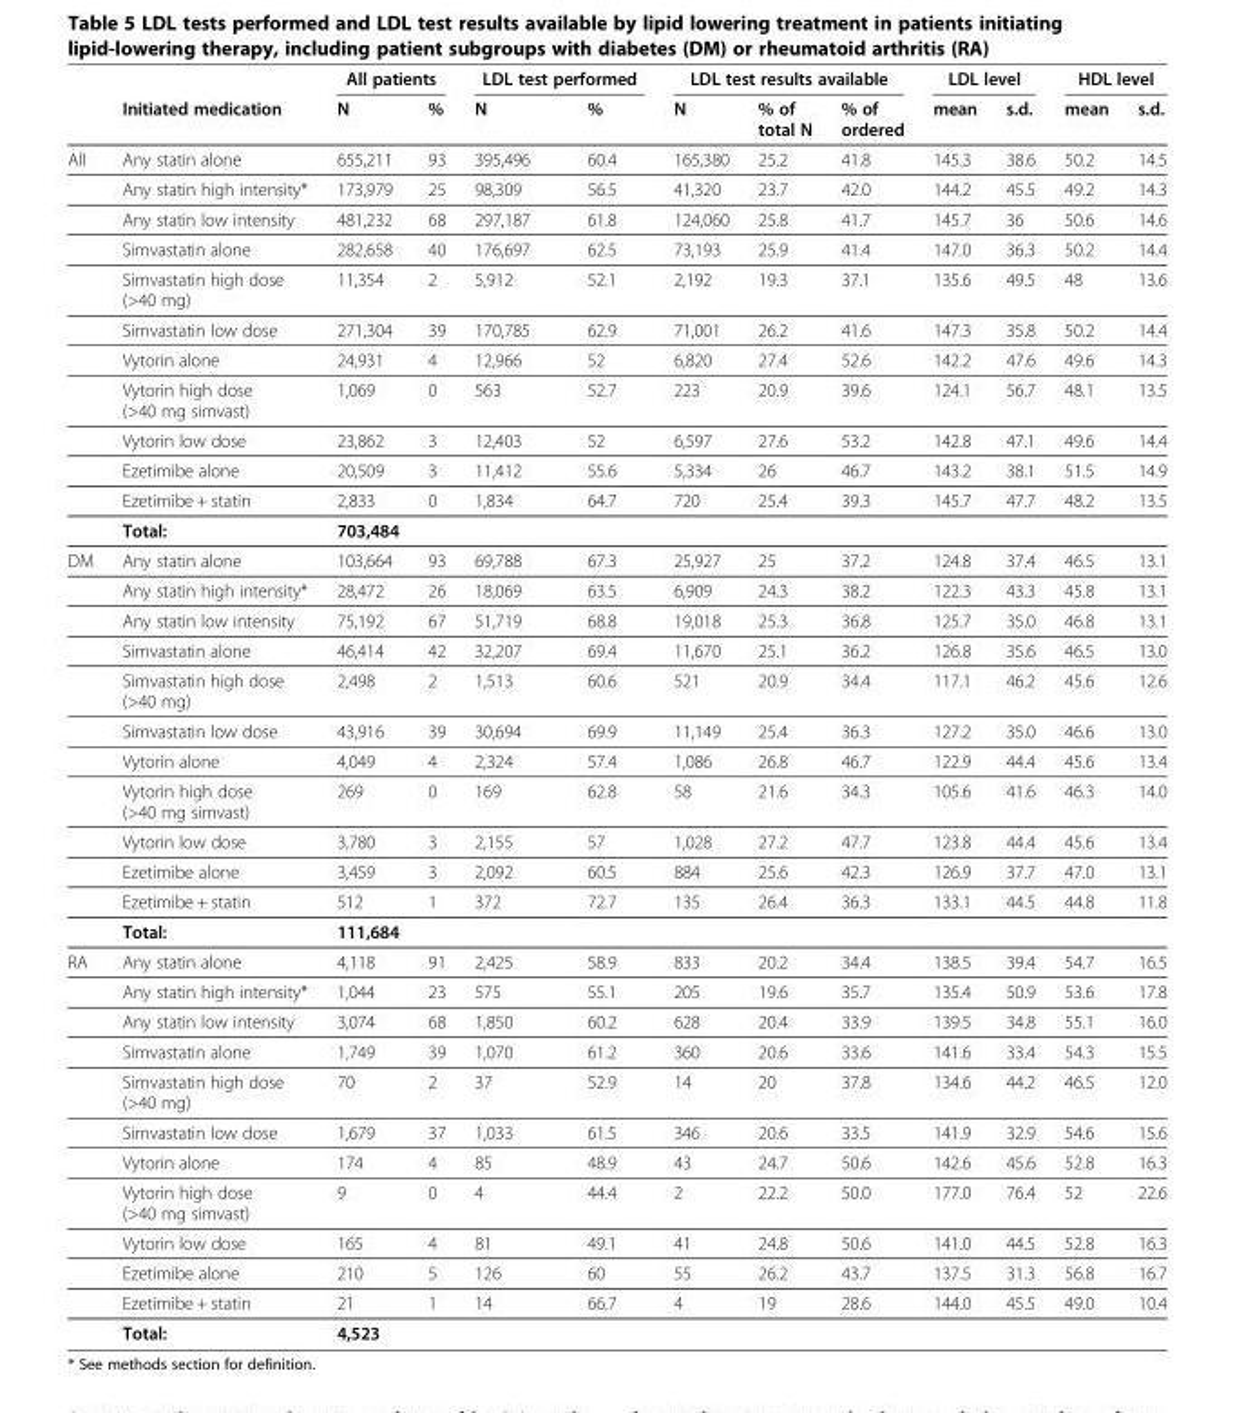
<table><thead><tr><td rowspan="2"></td><td rowspan="2">Initiated medication</td><td colspan="2">All patients</td><td colspan="2">LDL test performed</td><td colspan="3">LDL test results available</td><td colspan="2">LDL level</td><td colspan="2">HDL level</td></tr><tr><td>N</td><td>%</td><td>N</td><td>%</td><td>N</td><td>% of total N</td><td>% of ordered</td><td>mean</td><td>s.d.</td><td>mean</td><td>s.d.</td></tr></thead><tbody><tr><td rowspan="12">All</td><td>Any statin alone</td><td>655,211</td><td>93</td><td>395,496</td><td>60.4</td><td>165,380</td><td>25.2</td><td>41.8</td><td>145.3</td><td>38.6</td><td>50.2</td><td>14.5</td></tr><tr><td>Any statin high intensity*</td><td>173,979</td><td>25</td><td>98,309</td><td>56.5</td><td>41,320</td><td>23.7</td><td>42.0</td><td>144.2</td><td>45.5</td><td>49.2</td><td>14.3</td></tr><tr><td>Any statin low intensity</td><td>481,232</td><td>68</td><td>297,187</td><td>61.8</td><td>124,060</td><td>25.8</td><td>41.7</td><td>145.7</td><td>36</td><td>50.6</td><td>14.6</td></tr><tr><td>Simvastatin alone</td><td>282,658</td><td>40</td><td>176,697</td><td>62.5</td><td>73,193</td><td>25.9</td><td>41.4</td><td>147.0</td><td>36.3</td><td>50.2</td><td>14.4</td></tr><tr><td>Simvastatin high dose (&gt;40 mg)</td><td>11,354</td><td>2</td><td>5,912</td><td>52.1</td><td>2,192</td><td>19.3</td><td>37.1</td><td>135.6</td><td>49.5</td><td>48</td><td>13.6</td></tr><tr><td>Simvastatin low dose</td><td>271,304</td><td>39</td><td>170,785</td><td>62.9</td><td>71,001</td><td>26.2</td><td>41.6</td><td>147.3</td><td>35.8</td><td>50.2</td><td>14.4</td></tr><tr><td>Vytorin alone</td><td>24,931</td><td>4</td><td>12,966</td><td>52</td><td>6,820</td><td>27.4</td><td>52.6</td><td>142.2</td><td>47.6</td><td>49.6</td><td>14.3</td></tr><tr><td>Vytorin high dose (&gt;40 mg simvast)</td><td>1,069</td><td>0</td><td>563</td><td>52.7</td><td>223</td><td>20.9</td><td>39.6</td><td>124.1</td><td>56.7</td><td>48.1</td><td>13.5</td></tr><tr><td>Vytorin low dose</td><td>23,862</td><td>3</td><td>12,403</td><td>52</td><td>6,597</td><td>27.6</td><td>53.2</td><td>142.8</td><td>47.1</td><td>49.6</td><td>14.4</td></tr><tr><td>Ezetimibe alone</td><td>20,509</td><td>3</td><td>11,412</td><td>55.6</td><td>5,334</td><td>26</td><td>46.7</td><td>143.2</td><td>38.1</td><td>51.5</td><td>14.9</td></tr><tr><td>Ezetimibe + statin</td><td>2,833</td><td>0</td><td>1,834</td><td>64.7</td><td>720</td><td>25.4</td><td>39.3</td><td>145.7</td><td>47.7</td><td>48.2</td><td>13.5</td></tr><tr><td>Total:</td><td>703,484</td><td></td><td></td><td></td><td></td><td></td><td></td><td></td><td></td><td></td><td></td></tr><tr><td rowspan="12">DM</td><td>Any statin alone</td><td>103,664</td><td>93</td><td>69,788</td><td>67.3</td><td>25,927</td><td>25</td><td>37.2</td><td>124.8</td><td>37.4</td><td>46.5</td><td>13.1</td></tr><tr><td>Any statin high intensity*</td><td>28,472</td><td>26</td><td>18,069</td><td>63.5</td><td>6,909</td><td>24.3</td><td>38.2</td><td>122.3</td><td>43.3</td><td>45.8</td><td>13.1</td></tr><tr><td>Any statin low intensity</td><td>75,192</td><td>67</td><td>51,719</td><td>68.8</td><td>19,018</td><td>25.3</td><td>36.8</td><td>125.7</td><td>35.0</td><td>46.8</td><td>13.1</td></tr><tr><td>Simvastatin alone</td><td>46,414</td><td>42</td><td>32,207</td><td>69.4</td><td>11,670</td><td>25.1</td><td>36.2</td><td>126.8</td><td>35.6</td><td>46.5</td><td>13.0</td></tr><tr><td>Simvastatin high dose (&gt;40 mg)</td><td>2,498</td><td>2</td><td>1,513</td><td>60.6</td><td>521</td><td>20.9</td><td>34.4</td><td>117.1</td><td>46.2</td><td>45.6</td><td>12.6</td></tr><tr><td>Simvastatin low dose</td><td>43,916</td><td>39</td><td>30,694</td><td>69.9</td><td>11,149</td><td>25.4</td><td>36.3</td><td>127.2</td><td>35.0</td><td>46.6</td><td>13.0</td></tr><tr><td>Vytorin alone</td><td>4,049</td><td>4</td><td>2,324</td><td>57.4</td><td>1,086</td><td>26.8</td><td>46.7</td><td>122.9</td><td>44.4</td><td>45.6</td><td>13.4</td></tr><tr><td>Vytorin high dose (&gt;40 mg simvast)</td><td>269</td><td>0</td><td>169</td><td>62.8</td><td>58</td><td>21.6</td><td>34.3</td><td>105.6</td><td>41.6</td><td>46.3</td><td>14.0</td></tr><tr><td>Vytorin low dose</td><td>3,780</td><td>3</td><td>2,155</td><td>57</td><td>1,028</td><td>27.2</td><td>47.7</td><td>123.8</td><td>44.4</td><td>45.6</td><td>13.4</td></tr><tr><td>Ezetimibe alone</td><td>3,459</td><td>3</td><td>2,092</td><td>60.5</td><td>884</td><td>25.6</td><td>42.3</td><td>126.9</td><td>37.7</td><td>47.0</td><td>13.1</td></tr><tr><td>Ezetimibe + statin</td><td>512</td><td>1</td><td>372</td><td>72.7</td><td>135</td><td>26.4</td><td>36.3</td><td>133.1</td><td>44.5</td><td>44.8</td><td>11.8</td></tr><tr><td>Total:</td><td>111,684</td><td></td><td></td><td></td><td></td><td></td><td></td><td></td><td></td><td></td><td></td></tr><tr><td rowspan="12">RA</td><td>Any statin alone</td><td>4,118</td><td>91</td><td>2,425</td><td>58.9</td><td>833</td><td>20.2</td><td>34.4</td><td>138.5</td><td>39.4</td><td>54.7</td><td>16.5</td></tr><tr><td>Any statin high intensity*</td><td>1,044</td><td>23</td><td>575</td><td>55.1</td><td>205</td><td>19.6</td><td>35.7</td><td>135.4</td><td>50.9</td><td>53.6</td><td>17.8</td></tr><tr><td>Any statin low intensity</td><td>3,074</td><td>68</td><td>1,850</td><td>60.2</td><td>628</td><td>20.4</td><td>33.9</td><td>139.5</td><td>34.8</td><td>55.1</td><td>16.0</td></tr><tr><td>Simvastatin alone</td><td>1,749</td><td>39</td><td>1,070</td><td>61.2</td><td>360</td><td>20.6</td><td>33.6</td><td>141.6</td><td>33.4</td><td>54.3</td><td>15.5</td></tr><tr><td>Simvastatin high dose (&gt;40 mg)</td><td>70</td><td>2</td><td>37</td><td>52.9</td><td>14</td><td>20</td><td>37.8</td><td>134.6</td><td>44.2</td><td>46.5</td><td>12.0</td></tr><tr><td>Simvastatin low dose</td><td>1,679</td><td>37</td><td>1,033</td><td>61.5</td><td>346</td><td>20.6</td><td>33.5</td><td>141.9</td><td>32.9</td><td>54.6</td><td>15.6</td></tr><tr><td>Vytorin alone</td><td>174</td><td>4</td><td>85</td><td>48.9</td><td>43</td><td>24.7</td><td>50.6</td><td>142.6</td><td>45.6</td><td>52.8</td><td>16.3</td></tr><tr><td>Vytorin high dose (&gt;40 mg simvast)</td><td>9</td><td>0</td><td>4</td><td>44.4</td><td>2</td><td>22.2</td><td>50.0</td><td>177.0</td><td>76.4</td><td>52</td><td>22.6</td></tr><tr><td>Vytorin low dose</td><td>165</td><td>4</td><td>81</td><td>49.1</td><td>41</td><td>24.8</td><td>50.6</td><td>141.0</td><td>44.5</td><td>52.8</td><td>16.3</td></tr><tr><td>Ezetimibe alone</td><td>210</td><td>5</td><td>126</td><td>60</td><td>55</td><td>26.2</td><td>43.7</td><td>137.5</td><td>31.3</td><td>56.8</td><td>16.7</td></tr><tr><td>Ezetimibe + statin</td><td>21</td><td>1</td><td>14</td><td>66.7</td><td>4</td><td>19</td><td>28.6</td><td>144.0</td><td>45.5</td><td>49.0</td><td>10.4</td></tr><tr><td>Total:</td><td>4,523</td><td></td><td></td><td></td><td></td><td></td><td></td><td></td><td></td><td></td><td></td></tr></tbody></table>